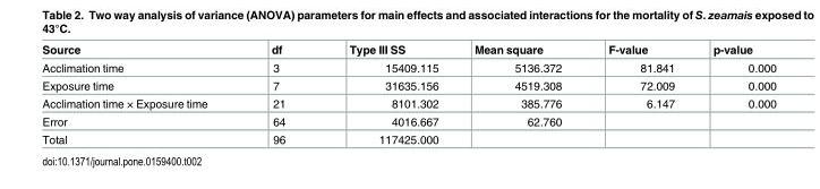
<table><thead><tr><td>Source</td><td>df</td><td>Type III SS</td><td>Mean square</td><td>F-value</td><td>p-value</td></tr></thead><tbody><tr><td>Acclimation time</td><td>3</td><td>15409.115</td><td>5136.372</td><td>81.841</td><td>0.000</td></tr><tr><td>Exposure time</td><td>7</td><td>31635.156</td><td>4519.308</td><td>72.009</td><td>0.000</td></tr><tr><td>Acclimation time × Exposure time</td><td>21</td><td>8101.302</td><td>385.776</td><td>6.147</td><td>0.000</td></tr><tr><td>Error</td><td>64</td><td>4016.667</td><td>62.760</td><td></td><td></td></tr><tr><td>Total</td><td>96</td><td>117425.000</td><td></td><td></td><td></td></tr></tbody></table>